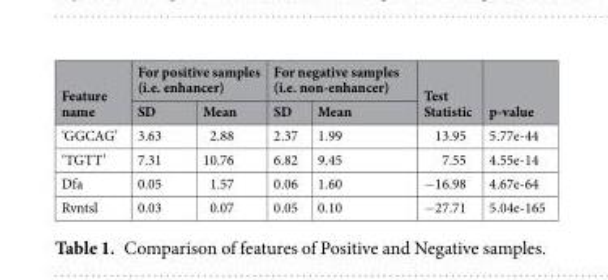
<table><thead><tr><td rowspan="2">Feature name</td><td colspan="2">For positive samples (i.e. enhancer)</td><td colspan="2">For negative samples (i.e. non-enhancer)</td><td rowspan="2">Test Statistic</td><td rowspan="2">p-value</td></tr><tr><td>SD</td><td>Mean</td><td>SD</td><td>Mean</td></tr></thead><tbody><tr><td>‘GGCAG’</td><td>3.63</td><td>2.88</td><td>2.37</td><td>1.99</td><td>13.95</td><td>5.77e-44</td></tr><tr><td>‘TGTT’</td><td>7.31</td><td>10.76</td><td>6.82</td><td>9.45</td><td>7.55</td><td>4.55e-14</td></tr><tr><td>Dfa</td><td>0.05</td><td>1.57</td><td>0.06</td><td>1.60</td><td>−16.98</td><td>4.67e-64</td></tr><tr><td>Rvntsl</td><td>0.03</td><td>0.07</td><td>0.05</td><td>0.10</td><td>−27.71</td><td>5.04e-165</td></tr></tbody></table>